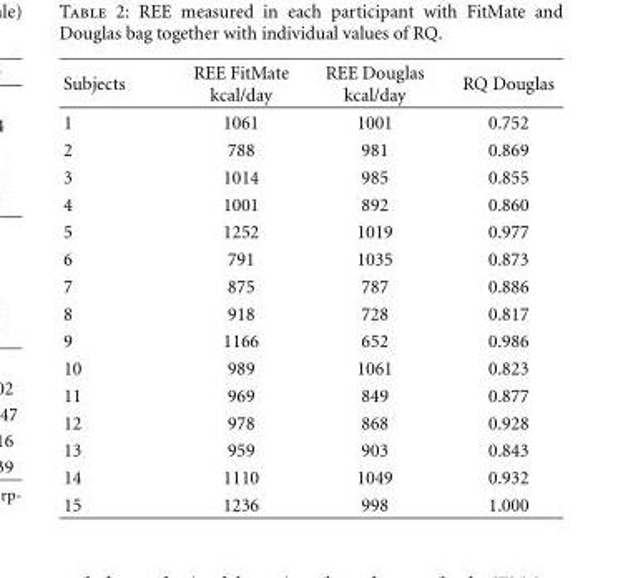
<table><thead><tr><td>Subjects</td><td>REE FitMate kcal/day</td><td>REE Douglas kcal/day</td><td>RQ Douglas</td></tr></thead><tbody><tr><td>1</td><td>1061</td><td>1001</td><td>0.752</td></tr><tr><td>2</td><td>788</td><td>981</td><td>0.869</td></tr><tr><td>3</td><td>1014</td><td>985</td><td>0.855</td></tr><tr><td>4</td><td>1001</td><td>892</td><td>0.860</td></tr><tr><td>5</td><td>1252</td><td>1019</td><td>0.977</td></tr><tr><td>6</td><td>791</td><td>1035</td><td>0.873</td></tr><tr><td>7</td><td>875</td><td>787</td><td>0.886</td></tr><tr><td>8</td><td>918</td><td>728</td><td>0.817</td></tr><tr><td>9</td><td>1166</td><td>652</td><td>0.986</td></tr><tr><td>10</td><td>989</td><td>1061</td><td>0.823</td></tr><tr><td>11</td><td>969</td><td>849</td><td>0.877</td></tr><tr><td>12</td><td>978</td><td>868</td><td>0.928</td></tr><tr><td>13</td><td>959</td><td>903</td><td>0.843</td></tr><tr><td>14</td><td>1110</td><td>1049</td><td>0.932</td></tr><tr><td>15</td><td>1236</td><td>998</td><td>1.000</td></tr></tbody></table>